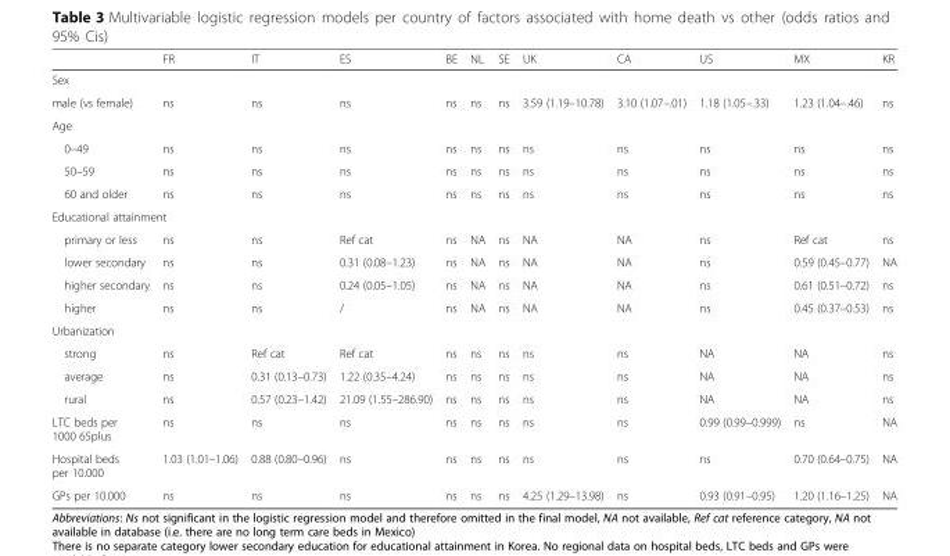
<table><thead><tr><td></td><td>FR</td><td>IT</td><td>ES</td><td>BE</td><td>NL</td><td>SE</td><td>UK</td><td>CA</td><td>US</td><td>MX</td><td>KR</td></tr></thead><tbody><tr><td colspan="12">Sex</td></tr><tr><td>male (vs female)</td><td>ns</td><td>ns</td><td>ns</td><td>ns</td><td>ns</td><td>ns</td><td>3.59 (1.19–10.78)</td><td>3.10 (1.07–.01)</td><td>1.18 (1.05–.33)</td><td>1.23 (1.04–.46)</td><td>ns</td></tr><tr><td colspan="12">Age</td></tr><tr><td>0–49</td><td>ns</td><td>ns</td><td>ns</td><td>ns</td><td>ns</td><td>ns</td><td>ns</td><td>ns</td><td>ns</td><td>ns</td><td>ns</td></tr><tr><td>50–59</td><td>ns</td><td>ns</td><td>ns</td><td>ns</td><td>ns</td><td>ns</td><td>ns</td><td>ns</td><td>ns</td><td>ns</td><td>ns</td></tr><tr><td>60 and older</td><td>ns</td><td>ns</td><td>ns</td><td>ns</td><td>ns</td><td>ns</td><td>ns</td><td>ns</td><td>ns</td><td>ns</td><td>ns</td></tr><tr><td colspan="12">Educational attainment</td></tr><tr><td>primary or less</td><td>ns</td><td>ns</td><td>Ref cat</td><td>ns</td><td>NA</td><td>ns</td><td>NA</td><td>NA</td><td>ns</td><td>Ref cat</td><td>ns</td></tr><tr><td>lower secondary</td><td>ns</td><td>ns</td><td>0.31 (0.08–1.23)</td><td>ns</td><td>NA</td><td>ns</td><td>NA</td><td>NA</td><td>ns</td><td>0.59 (0.45–0.77)</td><td>NA</td></tr><tr><td>higher secondary</td><td>ns</td><td>ns</td><td>0.24 (0.05–1.05)</td><td>ns</td><td>NA</td><td>ns</td><td>NA</td><td>NA</td><td>ns</td><td>0.61 (0.51–0.72)</td><td>ns</td></tr><tr><td>higher</td><td>ns</td><td>ns</td><td>/</td><td>ns</td><td>NA</td><td>ns</td><td>NA</td><td>NA</td><td>ns</td><td>0.45 (0.37–0.53)</td><td>ns</td></tr><tr><td colspan="12">Urbanization</td></tr><tr><td>strong</td><td>ns</td><td>Ref cat</td><td>Ref cat</td><td>ns</td><td>ns</td><td>ns</td><td>ns</td><td>ns</td><td>NA</td><td>NA</td><td>ns</td></tr><tr><td>average</td><td>ns</td><td>0.31 (0.13–0.73)</td><td>1.22 (0.35–4.24)</td><td>ns</td><td>ns</td><td>ns</td><td>ns</td><td>ns</td><td>NA</td><td>NA</td><td>ns</td></tr><tr><td>rural</td><td>ns</td><td>0.57 (0.23–1.42)</td><td>21.09 (1.55–286.90)</td><td>ns</td><td>ns</td><td>ns</td><td>ns</td><td>ns</td><td>NA</td><td>NA</td><td>ns</td></tr><tr><td>LTC beds per 1000 65plus</td><td>ns</td><td>ns</td><td>ns</td><td>ns</td><td>ns</td><td>ns</td><td>ns</td><td>ns</td><td>0.99 (0.99–0.999)</td><td>ns</td><td>NA</td></tr><tr><td>Hospital beds per 10.000</td><td>1.03 (1.01–1.06)</td><td>0.88 (0.80–0.96)</td><td>ns</td><td>ns</td><td>ns</td><td>ns</td><td>ns</td><td>ns</td><td>ns</td><td>0.70 (0.64–0.75)</td><td>NA</td></tr><tr><td>GPs per 10.000</td><td>ns</td><td>ns</td><td>ns</td><td>ns</td><td>ns</td><td>ns</td><td>4.25 (1.29–13.98)</td><td>ns</td><td>0.93 (0.91–0.95)</td><td>1.20 (1.16–1.25)</td><td>NA</td></tr></tbody></table>